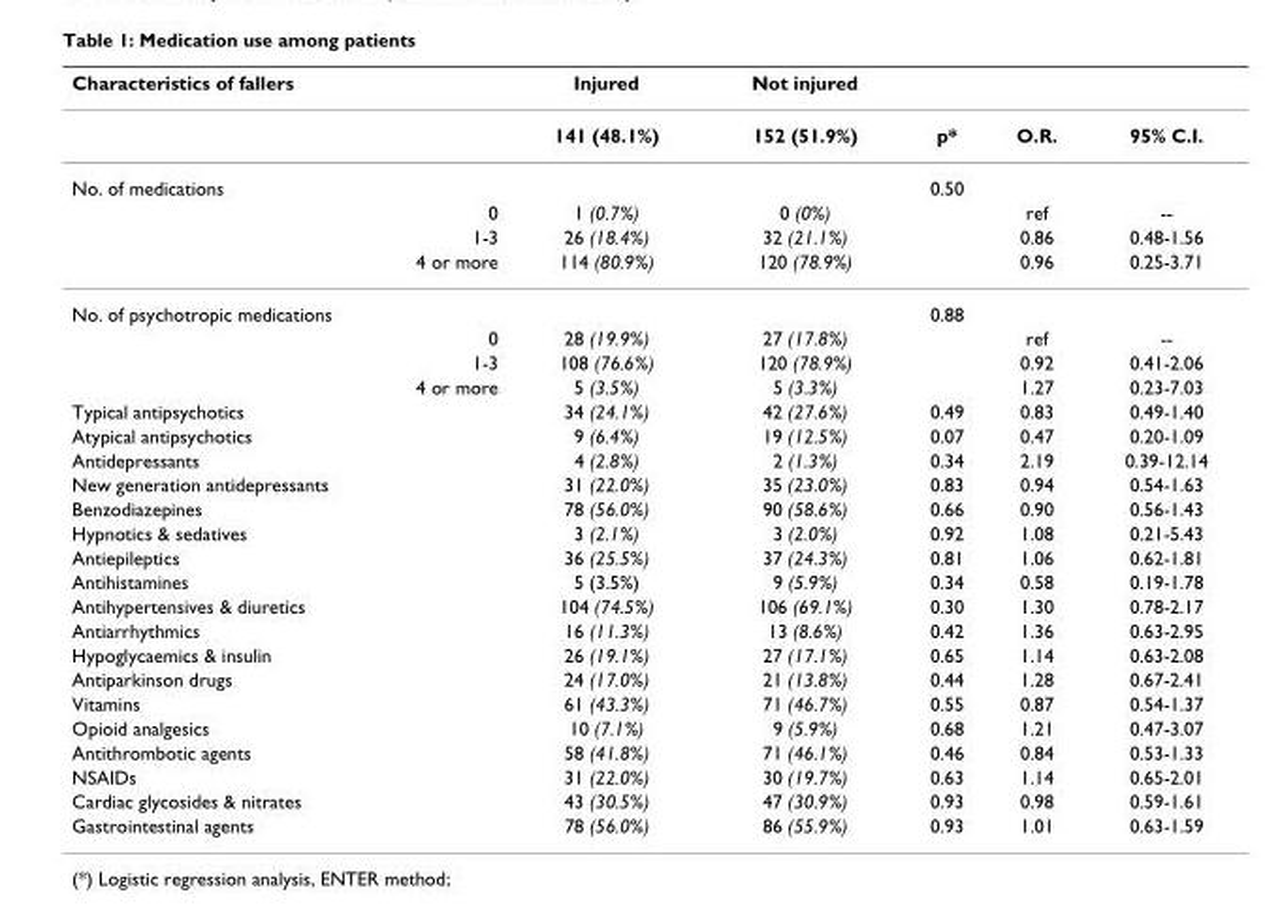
<table><thead><tr><td>Characteristics of fallers</td><td>Injured</td><td>Not injured</td><td></td><td></td><td></td></tr></thead><tbody><tr><td></td><td>141 (48.1%)</td><td>152 (51.9%)</td><td>p*</td><td>O.R.</td><td>95% C.I.</td></tr><tr><td>No. of medications</td><td></td><td></td><td>0.50</td><td></td><td></td></tr><tr><td>0</td><td>1 (0.7%)</td><td>0 (0%)</td><td></td><td>ref</td><td>--</td></tr><tr><td>1-3</td><td>26 (18.4%)</td><td>32 (21.1%)</td><td></td><td>0.86</td><td>0.48-1.56</td></tr><tr><td>4 or more</td><td>114 (80.9%)</td><td>120 (78.9%)</td><td></td><td>0.96</td><td>0.25-3.71</td></tr><tr><td>No. of psychotropic medications</td><td></td><td></td><td>0.88</td><td></td><td></td></tr><tr><td>0</td><td>28 (19.9%)</td><td>27 (17.8%)</td><td></td><td>ref</td><td>--</td></tr><tr><td>1-3</td><td>108 (76.6%)</td><td>120 (78.9%)</td><td></td><td>0.92</td><td>0.41-2.06</td></tr><tr><td>4 or more</td><td>5 (3.5%)</td><td>5 (3.3%)</td><td></td><td>1.27</td><td>0.23-7.03</td></tr><tr><td>Typical antipsychotics</td><td>34 (24.1%)</td><td>42 (27.6%)</td><td>0.49</td><td>0.83</td><td>0.49-1.40</td></tr><tr><td>Atypical antipsychotics</td><td>9 (6.4%)</td><td>19 (12.5%)</td><td>0.07</td><td>0.47</td><td>0.20-1.09</td></tr><tr><td>Antidepressants</td><td>4 (2.8%)</td><td>2 (1.3%)</td><td>0.34</td><td>2.19</td><td>0.39-12.14</td></tr><tr><td>New generation antidepressants</td><td>31 (22.0%)</td><td>35 (23.0%)</td><td>0.83</td><td>0.94</td><td>0.54-1.63</td></tr><tr><td>Benzodiazepines</td><td>78 (56.0%)</td><td>90 (58.6%)</td><td>0.66</td><td>0.90</td><td>0.56-1.43</td></tr><tr><td>Hypnotics &amp; sedatives</td><td>3 (2.1%)</td><td>3 (2.0%)</td><td>0.92</td><td>1.08</td><td>0.21-5.43</td></tr><tr><td>Antiepileptics</td><td>36 (25.5%)</td><td>37 (24.3%)</td><td>0.81</td><td>1.06</td><td>0.62-1.81</td></tr><tr><td>Antihistamines</td><td>5 (3.5%)</td><td>9 (5.9%)</td><td>0.34</td><td>0.58</td><td>0.19-1.78</td></tr><tr><td>Antihypertensives &amp; diuretics</td><td>104 (74.5%)</td><td>106 (69.1%)</td><td>0.30</td><td>1.30</td><td>0.78-2.17</td></tr><tr><td>Antiarrhythmics</td><td>16 (11.3%)</td><td>13 (8.6%)</td><td>0.42</td><td>1.36</td><td>0.63-2.95</td></tr><tr><td>Hypoglycaemics &amp; insulin</td><td>26 (19.1%)</td><td>27 (17.1%)</td><td>0.65</td><td>1.14</td><td>0.63-2.08</td></tr><tr><td>Antiparkinson drugs</td><td>24 (17.0%)</td><td>21 (13.8%)</td><td>0.44</td><td>1.28</td><td>0.67-2.41</td></tr><tr><td>Vitamins</td><td>61 (43.3%)</td><td>71 (46.7%)</td><td>0.55</td><td>0.87</td><td>0.54-1.37</td></tr><tr><td>Opioid analgesics</td><td>10 (7.1%)</td><td>9 (5.9%)</td><td>0.68</td><td>1.21</td><td>0.47-3.07</td></tr><tr><td>Antithrombotic agents</td><td>58 (41.8%)</td><td>71 (46.1%)</td><td>0.46</td><td>0.84</td><td>0.53-1.33</td></tr><tr><td>NSAIDs</td><td>31 (22.0%)</td><td>30 (19.7%)</td><td>0.63</td><td>1.14</td><td>0.65-2.01</td></tr><tr><td>Cardiac glycosides &amp; nitrates</td><td>43 (30.5%)</td><td>47 (30.9%)</td><td>0.93</td><td>0.98</td><td>0.59-1.61</td></tr><tr><td>Gastrointestinal agents</td><td>78 (56.0%)</td><td>86 (55.9%)</td><td>0.93</td><td>1.01</td><td>0.63-1.59</td></tr></tbody></table>